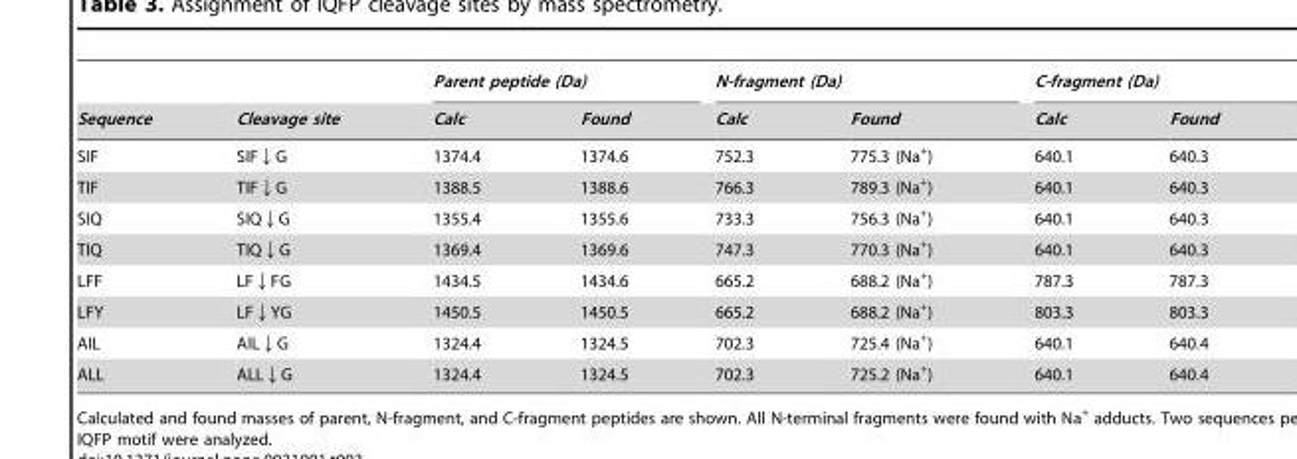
<table><thead><tr><td rowspan="2">Sequence</td><td rowspan="2">Cleavage site</td><td colspan="2">Parent peptide (Da)</td><td colspan="2">N-fragment (Da)</td><td colspan="2">C-fragment (Da)</td></tr><tr><td>Calc</td><td>Found</td><td>Calc</td><td>Found</td><td>Calc</td><td>Found</td></tr></thead><tbody><tr><td>SIF</td><td>SIF↓G</td><td>1374.4</td><td>1374.6</td><td>752.3</td><td>775.3 (Na<sup>+</sup>)</td><td>640.1</td><td>640.3</td></tr><tr><td>TIF</td><td>TIF↓G</td><td>1388.5</td><td>1388.6</td><td>766.3</td><td>789.3 (Na<sup>+</sup>)</td><td>640.1</td><td>640.3</td></tr><tr><td>SIQ</td><td>SIQ↓G</td><td>1355.4</td><td>1355.6</td><td>733.3</td><td>756.3 (Na<sup>+</sup>)</td><td>640.1</td><td>640.3</td></tr><tr><td>TIQ</td><td>TIQ↓G</td><td>1369.4</td><td>1369.6</td><td>747.3</td><td>770.3 (Na<sup>+</sup>)</td><td>640.1</td><td>640.3</td></tr><tr><td>LFF</td><td>LF↓FG</td><td>1434.5</td><td>1434.6</td><td>665.2</td><td>688.2 (Na<sup>+</sup>)</td><td>787.3</td><td>787.3</td></tr><tr><td>LFY</td><td>LF↓YG</td><td>1450.5</td><td>1450.5</td><td>665.2</td><td>688.2 (Na<sup>+</sup>)</td><td>803.3</td><td>803.3</td></tr><tr><td>AIL</td><td>AIL↓G</td><td>1324.4</td><td>1324.5</td><td>702.3</td><td>725.4 (Na<sup>+</sup>)</td><td>640.1</td><td>640.4</td></tr><tr><td>ALL</td><td>ALL↓G</td><td>1324.4</td><td>1324.5</td><td>702.3</td><td>725.2 (Na<sup>+</sup>)</td><td>640.1</td><td>640.4</td></tr></tbody></table>